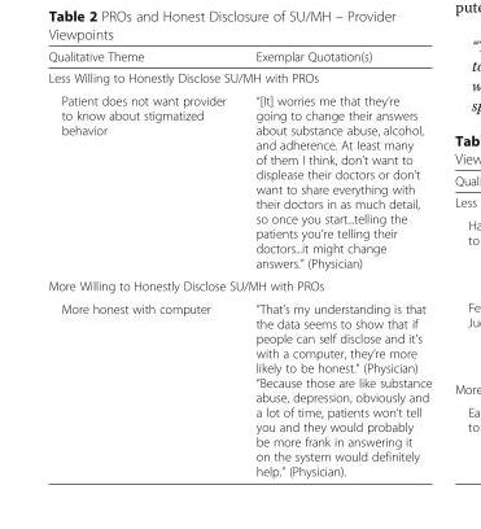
<table><thead><tr><td>Qualitative Theme</td><td>Exemplar Quotation(s)</td></tr></thead><tbody><tr><td colspan="2">Less Willing to Honestly Disclose SU/MH with PROs</td></tr><tr><td>Patient does not want provider to know about stigmatized behavior</td><td>“[It] worries me that they’re going to change their answers about substance abuse, alcohol, and adherence. At least many of them I think, don’t want to displease their doctors or don’t want to share everything with their doctors in as much detail, so once you start...telling the patients you’re telling their doctors...it might change answers.” (Physician)</td></tr><tr><td colspan="2">More Willing to Honestly Disclose SU/MH with PROs</td></tr><tr><td>More honest with computer</td><td>“That’s my understanding is that the data seems to show that if people can self disclose and it’s with a computer, they’re more likely to be honest.” (Physician) “Because those are like substance abuse, depression, obviously and a lot of time, patients won’t tell you and they would probably be more frank in answering it on the system would definitely help.” (Physician).</td></tr></tbody></table>